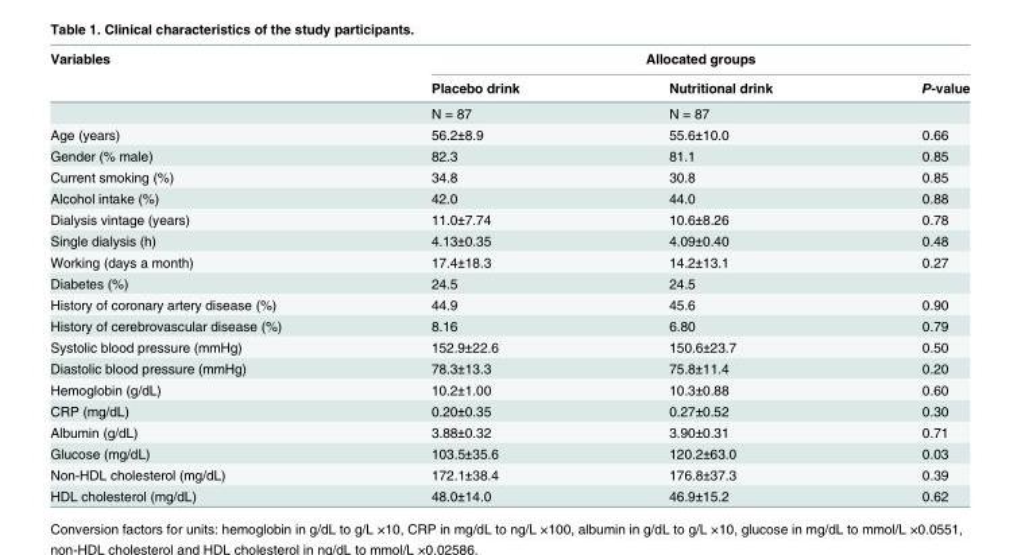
<table><thead><tr><td rowspan="2">Variables</td><td colspan="2">Allocated groups</td><td rowspan="2">P-value</td></tr><tr><td>Placebo drink</td><td>Nutritional drink</td></tr></thead><tbody><tr><td></td><td>N = 87</td><td>N = 87</td><td></td></tr><tr><td>Age (years)</td><td>56.2±8.9</td><td>55.6±10.0</td><td>0.66</td></tr><tr><td>Gender (% male)</td><td>82.3</td><td>81.1</td><td>0.85</td></tr><tr><td>Current smoking (%)</td><td>34.8</td><td>30.8</td><td>0.85</td></tr><tr><td>Alcohol intake (%)</td><td>42.0</td><td>44.0</td><td>0.88</td></tr><tr><td>Dialysis vintage (years)</td><td>11.0±7.74</td><td>10.6±8.26</td><td>0.78</td></tr><tr><td>Single dialysis (h)</td><td>4.13±0.35</td><td>4.09±0.40</td><td>0.48</td></tr><tr><td>Working (days a month)</td><td>17.4±18.3</td><td>14.2±13.1</td><td>0.27</td></tr><tr><td>Diabetes (%)</td><td>24.5</td><td>24.5</td><td></td></tr><tr><td>History of coronary artery disease (%)</td><td>44.9</td><td>45.6</td><td>0.90</td></tr><tr><td>History of cerebrovascular disease (%)</td><td>8.16</td><td>6.80</td><td>0.79</td></tr><tr><td>Systolic blood pressure (mmHg)</td><td>152.9±22.6</td><td>150.6±23.7</td><td>0.50</td></tr><tr><td>Diastolic blood pressure (mmHg)</td><td>78.3±13.3</td><td>75.8±11.4</td><td>0.20</td></tr><tr><td>Hemoglobin (g/dL)</td><td>10.2±1.00</td><td>10.3±0.88</td><td>0.60</td></tr><tr><td>CRP (mg/dL)</td><td>0.20±0.35</td><td>0.27±0.52</td><td>0.30</td></tr><tr><td>Albumin (g/dL)</td><td>3.88±0.32</td><td>3.90±0.31</td><td>0.71</td></tr><tr><td>Glucose (mg/dL)</td><td>103.5±35.6</td><td>120.2±63.0</td><td>0.03</td></tr><tr><td>Non-HDL cholesterol (mg/dL)</td><td>172.1±38.4</td><td>176.8±37.3</td><td>0.39</td></tr><tr><td>HDL cholesterol (mg/dL)</td><td>48.0±14.0</td><td>46.9±15.2</td><td>0.62</td></tr></tbody></table>